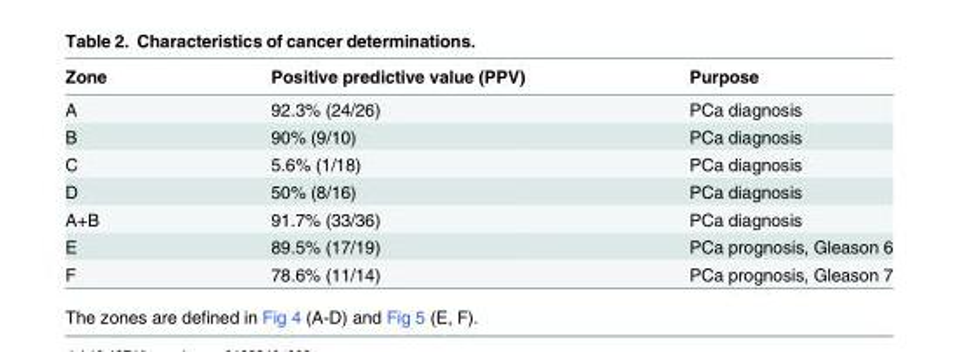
<table><thead><tr><td>Zone</td><td>Positive predictive value (PPV)</td><td>Purpose</td></tr></thead><tbody><tr><td>A</td><td>92.3% (24/26)</td><td>PCa diagnosis</td></tr><tr><td>B</td><td>90% (9/10)</td><td>PCa diagnosis</td></tr><tr><td>C</td><td>5.6% (1/18)</td><td>PCa diagnosis</td></tr><tr><td>D</td><td>50% (8/16)</td><td>PCa diagnosis</td></tr><tr><td>A+B</td><td>91.7% (33/36)</td><td>PCa diagnosis</td></tr><tr><td>E</td><td>89.5% (17/19)</td><td>PCa prognosis, Gleason 6</td></tr><tr><td>F</td><td>78.6% (11/14)</td><td>PCa prognosis, Gleason 7</td></tr></tbody></table>